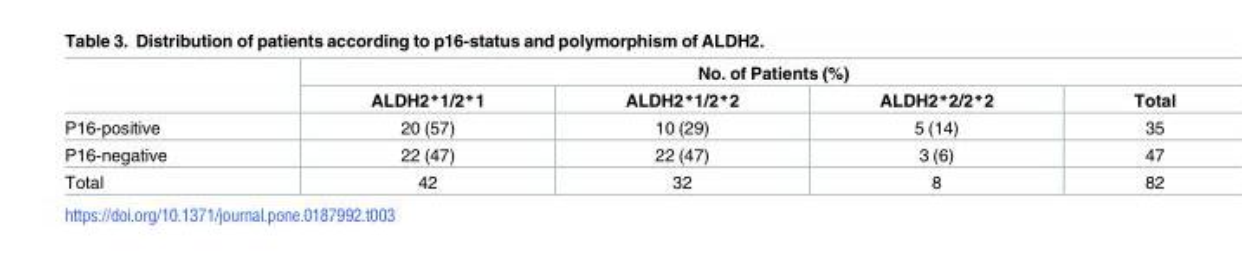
<table><thead><tr><td rowspan="2"></td><td colspan="4">No. of Patients (%)</td></tr><tr><td>ALDH2*1/2*1</td><td>ALDH2*1/2*2</td><td>ALDH2*2/2*2</td><td>Total</td></tr></thead><tbody><tr><td>P16-positive</td><td>20 (57)</td><td>10 (29)</td><td>5 (14)</td><td>35</td></tr><tr><td>P16-negative</td><td>22 (47)</td><td>22 (47)</td><td>3 (6)</td><td>47</td></tr><tr><td>Total</td><td>42</td><td>32</td><td>8</td><td>82</td></tr></tbody></table>